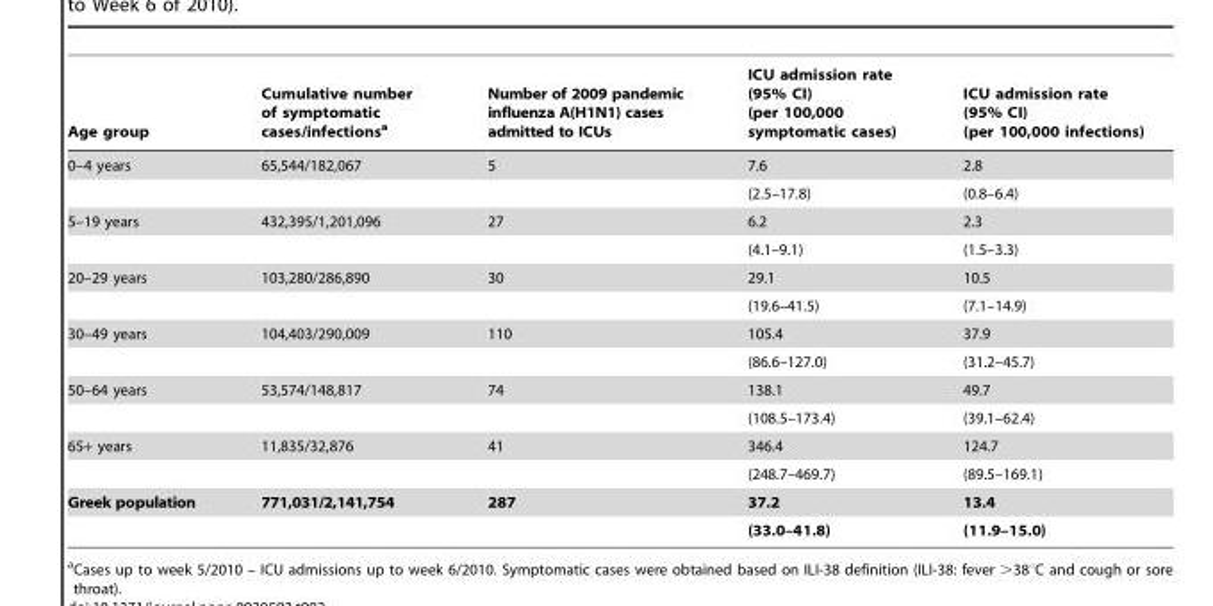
<table><thead><tr><td>Age group</td><td>Cumulative number of symptomatic cases/infections<sup>a</sup></td><td>Number of 2009 pandemic influenza A(H1N1) cases admitted to ICUs</td><td>ICU admission rate (95% CI) (per 100,000 symptomatic cases)</td><td>ICU admission rate (95% CI) (per 100,000 infections)</td></tr></thead><tbody><tr><td rowspan="2">0–4 years</td><td>65,544/182,067</td><td>5</td><td>7.6</td><td>2.8</td></tr><tr><td></td><td></td><td>(2.5–17.8)</td><td>(0.8–6.4)</td></tr><tr><td rowspan="2">5–19 years</td><td>432,395/1,201,096</td><td>27</td><td>6.2</td><td>2.3</td></tr><tr><td></td><td></td><td>(4.1–9.1)</td><td>(1.5–3.3)</td></tr><tr><td rowspan="2">20–29 years</td><td>103,280/286,890</td><td>30</td><td>29.1</td><td>10.5</td></tr><tr><td></td><td></td><td>(19.6–41.5)</td><td>(7.1–14.9)</td></tr><tr><td rowspan="2">30–49 years</td><td>104,403/290,009</td><td>110</td><td>105.4</td><td>37.9</td></tr><tr><td></td><td></td><td>(86.6–127.0)</td><td>(31.2–45.7)</td></tr><tr><td rowspan="2">50–64 years</td><td>53,574/148,817</td><td>74</td><td>138.1</td><td>49.7</td></tr><tr><td></td><td></td><td>(108.5–173.4)</td><td>(39.1–62.4)</td></tr><tr><td rowspan="2">65+ years</td><td>11,835/32,876</td><td>41</td><td>346.4</td><td>124.7</td></tr><tr><td></td><td></td><td>(248.7–469.7)</td><td>(89.5–169.1)</td></tr><tr><td rowspan="2">Greek population</td><td>771,031/2,141,754</td><td>287</td><td>37.2</td><td>13.4</td></tr><tr><td></td><td></td><td>(33.0–41.8)</td><td>(11.9–15.0)</td></tr></tbody></table>